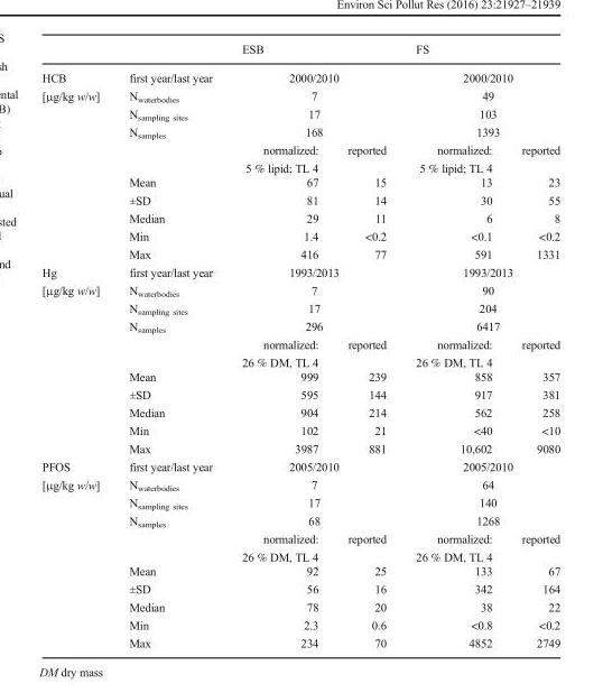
<table><thead><tr><td></td><td></td><td colspan="2">ESB</td><td colspan="2">FS</td></tr></thead><tbody><tr><td rowspan="10">HCB [μg/kg w/w]</td><td>first year/last year</td><td colspan="2">2000/2010</td><td colspan="2">2000/2010</td></tr><tr><td>N<sub>waterbodies</sub></td><td colspan="2">7</td><td colspan="2">49</td></tr><tr><td>N<sub>sampling sites</sub></td><td colspan="2">17</td><td colspan="2">103</td></tr><tr><td>N<sub>samples</sub></td><td colspan="2">168</td><td colspan="2">1393</td></tr><tr><td></td><td>normalized: 5 % lipid; TL 4</td><td>reported</td><td>normalized: 5 % lipid; TL 4</td><td>reported</td></tr><tr><td>Mean</td><td>67</td><td>15</td><td>13</td><td>23</td></tr><tr><td>±SD</td><td>81</td><td>14</td><td>30</td><td>55</td></tr><tr><td>Median</td><td>29</td><td>11</td><td>6</td><td>8</td></tr><tr><td>Min</td><td>1.4</td><td>&lt;0.2</td><td>&lt;0.1</td><td>&lt;0.2</td></tr><tr><td>Max</td><td>416</td><td>77</td><td>591</td><td>1331</td></tr><tr><td rowspan="10">Hg [μg/kg w/w]</td><td>first year/last year</td><td colspan="2">1993/2013</td><td colspan="2">1993/2013</td></tr><tr><td>N<sub>waterbodies</sub></td><td colspan="2">7</td><td colspan="2">90</td></tr><tr><td>N<sub>sampling sites</sub></td><td colspan="2">17</td><td colspan="2">204</td></tr><tr><td>N<sub>samples</sub></td><td colspan="2">296</td><td colspan="2">6417</td></tr><tr><td></td><td>normalized: 26 % DM, TL 4</td><td>reported</td><td>normalized: 26 % DM, TL 4</td><td>reported</td></tr><tr><td>Mean</td><td>999</td><td>239</td><td>858</td><td>357</td></tr><tr><td>±SD</td><td>595</td><td>144</td><td>917</td><td>381</td></tr><tr><td>Median</td><td>904</td><td>214</td><td>562</td><td>258</td></tr><tr><td>Min</td><td>102</td><td>21</td><td>&lt;40</td><td>&lt;10</td></tr><tr><td>Max</td><td>3987</td><td>881</td><td>10,602</td><td>9080</td></tr><tr><td rowspan="10">PFOS [μg/kg w/w]</td><td>first year/last year</td><td colspan="2">2005/2010</td><td colspan="2">2005/2010</td></tr><tr><td>N<sub>waterbodies</sub></td><td colspan="2">7</td><td colspan="2">64</td></tr><tr><td>N<sub>sampling sites</sub></td><td colspan="2">17</td><td colspan="2">140</td></tr><tr><td>N<sub>samples</sub></td><td colspan="2">68</td><td colspan="2">1268</td></tr><tr><td></td><td>normalized: 26 % DM, TL 4</td><td>reported</td><td>normalized: 26 % DM, TL 4</td><td>reported</td></tr><tr><td>Mean</td><td>92</td><td>25</td><td>133</td><td>67</td></tr><tr><td>±SD</td><td>56</td><td>16</td><td>342</td><td>164</td></tr><tr><td>Median</td><td>78</td><td>20</td><td>38</td><td>22</td></tr><tr><td>Min</td><td>2.3</td><td>0.6</td><td>&lt;0.8</td><td>&lt;0.2</td></tr><tr><td>Max</td><td>234</td><td>70</td><td>4852</td><td>2749</td></tr></tbody></table>